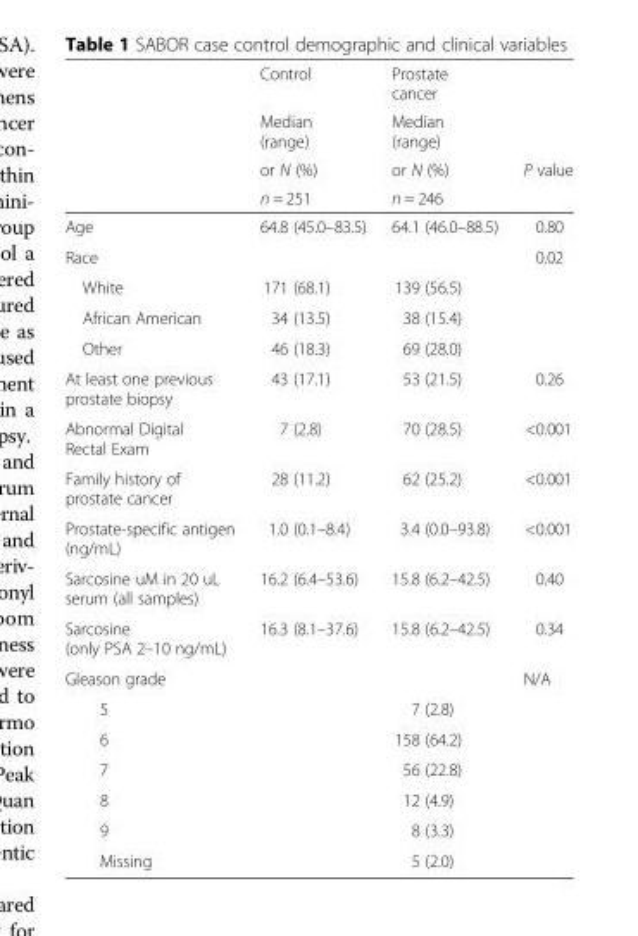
<table><thead><tr><td rowspan="4"></td><td rowspan="4">Control Median (range) or N (%) n = 251</td><td rowspan="4">Prostate cancer Median (range) or N (%) n = 246</td><td rowspan="4">P value</td></tr><tr></tr><tr></tr><tr></tr></thead><tbody><tr><td>Age</td><td>64.8 (45.0–83.5)</td><td>64.1 (46.0–88.5)</td><td>0.80</td></tr><tr><td>Race</td><td></td><td></td><td>0.02</td></tr><tr><td>White</td><td>171 (68.1)</td><td>139 (56.5)</td><td></td></tr><tr><td>African American</td><td>34 (13.5)</td><td>38 (15.4)</td><td></td></tr><tr><td>Other</td><td>46 (18.3)</td><td>69 (28.0)</td><td></td></tr><tr><td>At least one previous prostate biopsy</td><td>43 (17.1)</td><td>53 (21.5)</td><td>0.26</td></tr><tr><td>Abnormal Digital Rectal Exam</td><td>7 (2.8)</td><td>70 (28.5)</td><td>&lt;0.001</td></tr><tr><td>Family history of prostate cancer</td><td>28 (11.2)</td><td>62 (25.2)</td><td>&lt;0.001</td></tr><tr><td>Prostate-specific antigen (ng/mL)</td><td>1.0 (0.1–8.4)</td><td>3.4 (0.0–93.8)</td><td>&lt;0.001</td></tr><tr><td>Sarcosine uM in 20 uL serum (all samples)</td><td>16.2 (6.4–53.6)</td><td>15.8 (6.2–42.5)</td><td>0.40</td></tr><tr><td>Sarcosine (only PSA 2–10 ng/mL)</td><td>16.3 (8.1–37.6)</td><td>15.8 (6.2–42.5)</td><td>0.34</td></tr><tr><td>Gleason grade</td><td></td><td></td><td>N/A</td></tr><tr><td>5</td><td></td><td>7 (2.8)</td><td></td></tr><tr><td>6</td><td></td><td>158 (64.2)</td><td></td></tr><tr><td>7</td><td></td><td>56 (22.8)</td><td></td></tr><tr><td>8</td><td></td><td>12 (4.9)</td><td></td></tr><tr><td>9</td><td></td><td>8 (3.3)</td><td></td></tr><tr><td>Missing</td><td></td><td>5 (2.0)</td><td></td></tr></tbody></table>